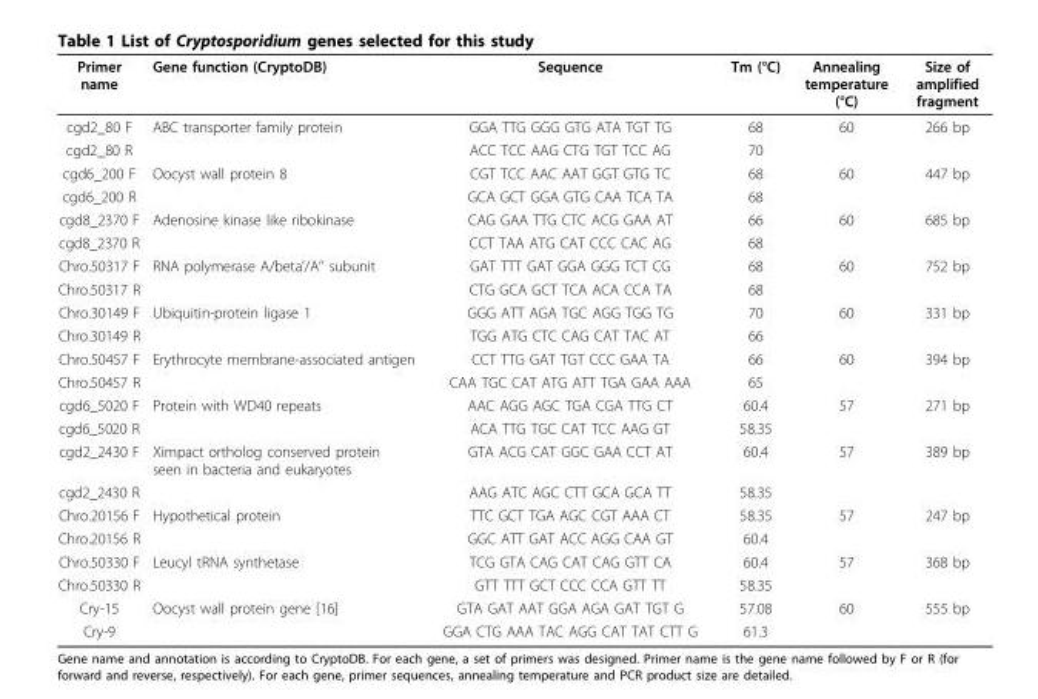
<table><thead><tr><td>Primer name</td><td>Gene function (CryptoDB)</td><td>Sequence</td><td>Tm (°C)</td><td>Annealing temperature (°C)</td><td>Size of amplified fragment</td></tr></thead><tbody><tr><td>cgd2_80 F</td><td>ABC transporter family protein</td><td>GGA TTG GGG GTG ATA TGT TG</td><td>68</td><td>60</td><td>266 bp</td></tr><tr><td>cgd2_80 R</td><td></td><td>ACC TCC AAG CTG TGT TCC AG</td><td>70</td><td></td><td></td></tr><tr><td>cgd6_200 F</td><td>Oocyst wall protein 8</td><td>CGT TCC AAC AAT GGT GTG TC</td><td>68</td><td>60</td><td>447 bp</td></tr><tr><td>cgd6_200 R</td><td></td><td>GCA GCT GGA GTG CAA TCA TA</td><td>68</td><td></td><td></td></tr><tr><td>cgd8_2370 F</td><td>Adenosine kinase like ribokinase</td><td>CAG GAA TTG CTC ACG GAA AT</td><td>66</td><td>60</td><td>685 bp</td></tr><tr><td>cgd8_2370 R</td><td></td><td>CCT TAA ATG CAT CCC CAC AG</td><td>68</td><td></td><td></td></tr><tr><td>Chro.50317 F</td><td>RNA polymerase A/beta’/A’’ subunit</td><td>GAT TTT GAT GGA GGG TCT CG</td><td>68</td><td>60</td><td>752 bp</td></tr><tr><td>Chro.50317 R</td><td></td><td>CTG GCA GCT TCA ACA CCA TA</td><td>68</td><td></td><td></td></tr><tr><td>Chro.30149 F</td><td>Ubiquitin-protein ligase 1</td><td>GGG ATT AGA TGC AGG TGG TG</td><td>70</td><td>60</td><td>331 bp</td></tr><tr><td>Chro.30149 R</td><td></td><td>TGG ATG CTC CAG CAT TAC AT</td><td>66</td><td></td><td></td></tr><tr><td>Chro.50457 F</td><td>Erythrocyte membrane-associated antigen</td><td>CCT TTG GAT TGT CCC GAA TA</td><td>66</td><td>60</td><td>394 bp</td></tr><tr><td>Chro.50457 R</td><td></td><td>CAA TGC CAT ATG ATT TGA GAA AAA</td><td>65</td><td></td><td></td></tr><tr><td>cgd6_5020 F</td><td>Protein with WD40 repeats</td><td>AAC AGG AGC TGA CGA TTG CT</td><td>60.4</td><td>57</td><td>271 bp</td></tr><tr><td>cgd6_5020 R</td><td></td><td>ACA TTG TGC CAT TCC AAG GT</td><td>58.35</td><td></td><td></td></tr><tr><td>cgd2_2430 F</td><td>Ximpact ortholog conserved protein seen in bacteria and eukaryotes</td><td>GTA ACG CAT GGC GAA CCT AT</td><td>60.4</td><td>57</td><td>389 bp</td></tr><tr><td>cgd2_2430 R</td><td></td><td>AAG ATC AGC CTT GCA GCA TT</td><td>58.35</td><td></td><td></td></tr><tr><td>Chro.20156 F</td><td>Hypothetical protein</td><td>TTC GCT TGA AGC CGT AAA CT</td><td>58.35</td><td>57</td><td>247 bp</td></tr><tr><td>Chro.20156 R</td><td></td><td>GGC ATT GAT ACC AGG CAA GT</td><td>60.4</td><td></td><td></td></tr><tr><td>Chro.50330 F</td><td>Leucyl tRNA synthetase</td><td>TCG GTA CAG CAT CAG GTT CA</td><td>60.4</td><td>57</td><td>368 bp</td></tr><tr><td>Chro.50330 R</td><td></td><td>GTT TTT GCT CCC CCA GTT TT</td><td>58.35</td><td></td><td></td></tr><tr><td>Cry-15</td><td>Oocyst wall protein gene [16]</td><td>GTA GAT AAT GGA AGA GAT TGT G</td><td>57.08</td><td>60</td><td>555 bp</td></tr><tr><td>Cry-9</td><td></td><td>GGA CTG AAA TAC AGG CAT TAT CTT G</td><td>61.3</td><td></td><td></td></tr></tbody></table>